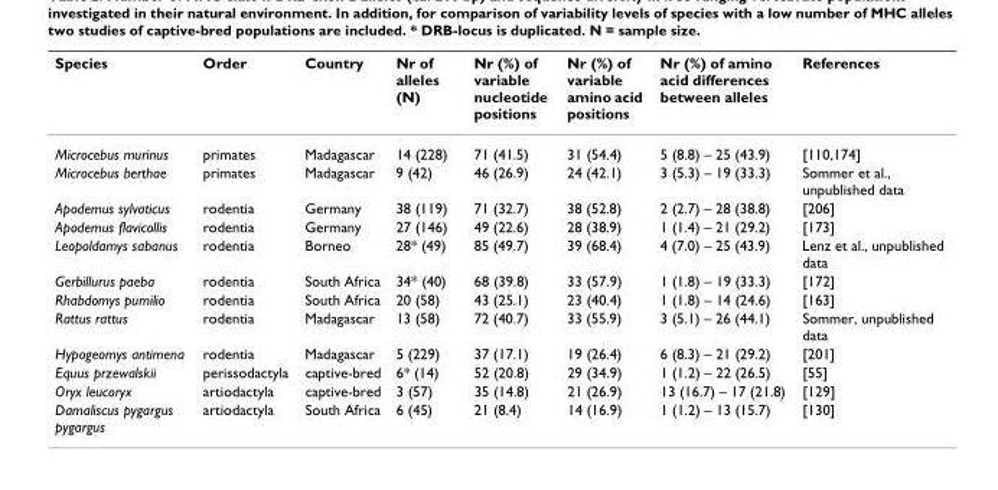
<table><thead><tr><td>Species</td><td>Order</td><td>Country</td><td>Nr of alleles (N)</td><td>Nr (%) of variable nucleotide positions</td><td>Nr (%) of variable amino acid positions</td><td>Nr (%) of amino acid differences between alleles</td><td>References</td></tr></thead><tbody><tr><td>Microcebus murinus</td><td>primates</td><td>Madagascar</td><td>14 (228)</td><td>71 (41.5)</td><td>31 (54.4)</td><td>5 (8.8) – 25 (43.9)</td><td>[110,174]</td></tr><tr><td>Microcebus berthae</td><td>primates</td><td>Madagascar</td><td>9 (42)</td><td>46 (26.9)</td><td>24 (42.1)</td><td>3 (5.3) – 19 (33.3)</td><td>Sommer et al., unpublished data</td></tr><tr><td>Apodemus sylvaticus</td><td>rodentia</td><td>Germany</td><td>38 (119)</td><td>71 (32.7)</td><td>38 (52.8)</td><td>2 (2.7) – 28 (38.8)</td><td>[206]</td></tr><tr><td>Apodemus flavicollis</td><td>rodentia</td><td>Germany</td><td>27 (146)</td><td>49 (22.6)</td><td>28 (38.9)</td><td>1 (1.4) – 21 (29.2)</td><td>[173]</td></tr><tr><td>Leopoldamys sabanus</td><td>rodentia</td><td>Borneo</td><td>28* (49)</td><td>85 (49.7)</td><td>39 (68.4)</td><td>4 (7.0) – 25 (43.9)</td><td>Lenz et al., unpublished data</td></tr><tr><td>Gerbillurus paeba</td><td>rodentia</td><td>South Africa</td><td>34* (40)</td><td>68 (39.8)</td><td>33 (57.9)</td><td>1 (1.8) – 19 (33.3)</td><td>[172]</td></tr><tr><td>Rhabdomys pumilio</td><td>rodentia</td><td>South Africa</td><td>20 (58)</td><td>43 (25.1)</td><td>23 (40.4)</td><td>1 (1.8) – 14 (24.6)</td><td>[163]</td></tr><tr><td>Rattus rattus</td><td>rodentia</td><td>Madagascar</td><td>13 (58)</td><td>72 (40.7)</td><td>33 (55.9)</td><td>3 (5.1) – 26 (44.1)</td><td>Sommer, unpublished data</td></tr><tr><td>Hypogeomys antimena</td><td>rodentia</td><td>Madagascar</td><td>5 (229)</td><td>37 (17.1)</td><td>19 (26.4)</td><td>6 (8.3) – 21 (29.2)</td><td>[201]</td></tr><tr><td>Equus przewalskii</td><td>perissodactyla</td><td>captive-bred</td><td>6* (14)</td><td>52 (20.8)</td><td>29 (34.9)</td><td>1 (1.2) – 22 (26.5)</td><td>[55]</td></tr><tr><td>Oryx leucoryx</td><td>artiodactyla</td><td>captive-bred</td><td>3 (57)</td><td>35 (14.8)</td><td>21 (26.9)</td><td>13 (16.7) – 17 (21.8)</td><td>[129]</td></tr><tr><td>Damaliscus pygargus pygargus</td><td>artiodactyla</td><td>South Africa</td><td>6 (45)</td><td>21 (8.4)</td><td>14 (16.9)</td><td>1 (1.2) – 13 (15.7)</td><td>[130]</td></tr></tbody></table>